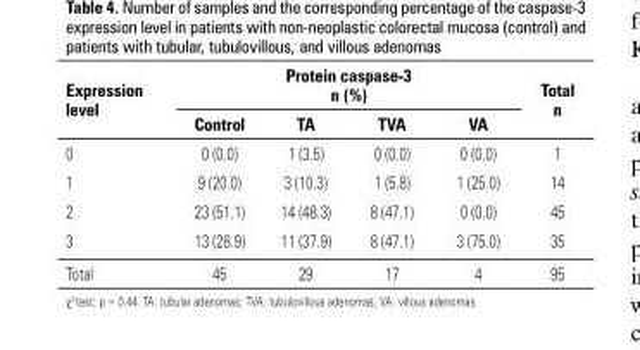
<table><thead><tr><td rowspan="2">Expression level</td><td colspan="4">Protein caspase-3 n (%)</td><td rowspan="2">Total n</td></tr><tr><td>Control</td><td>TA</td><td>TVA</td><td>VA</td></tr></thead><tbody><tr><td>0</td><td>0 (0.0)</td><td>1 (3.5)</td><td>0 (0.0)</td><td>0 (0.0)</td><td>1</td></tr><tr><td>1</td><td>9 (20.0)</td><td>3 (10.3)</td><td>1 (5.8)</td><td>1 (25.0)</td><td>14</td></tr><tr><td>2</td><td>23 (51.1)</td><td>14 (48.3)</td><td>8 (47.1)</td><td>0 (0.0)</td><td>45</td></tr><tr><td>3</td><td>13 (28.9)</td><td>11 (37.9)</td><td>8 (47.1)</td><td>3 (75.0)</td><td>35</td></tr><tr><td>Total</td><td>45</td><td>29</td><td>17</td><td>4</td><td>95</td></tr></tbody></table>